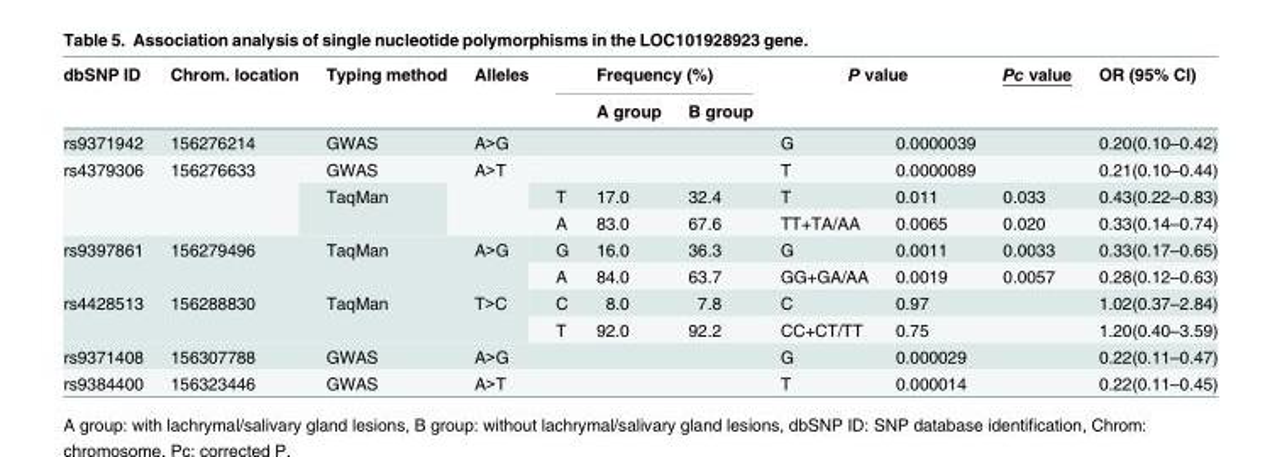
<table><thead><tr><td rowspan="3">dbSNP ID rs9371942</td><td rowspan="3">Chrom. location 156276214</td><td rowspan="3">Typing method GWAS</td><td rowspan="3">Alleles A&gt;G</td><td colspan="3">Frequency (%)</td><td rowspan="2" colspan="2">P value</td><td rowspan="3">Pc value</td><td rowspan="3">OR (95% CI) 0.20(0.10–0.42)</td></tr><tr><td rowspan="2"></td><td rowspan="2">A group</td><td rowspan="2">B group</td></tr><tr><td>G</td><td>0.0000039</td></tr></thead><tbody><tr><td rowspan="3">rs4379306</td><td rowspan="3">156276633</td><td>GWAS</td><td rowspan="3">A&gt;T</td><td></td><td></td><td></td><td>T</td><td>0.0000089</td><td></td><td>0.21(0.10–0.44)</td></tr><tr><td rowspan="2">TaqMan</td><td>T</td><td>17.0</td><td>32.4</td><td>T</td><td>0.011</td><td>0.033</td><td>0.43(0.22–0.83)</td></tr><tr><td>A</td><td>83.0</td><td>67.6</td><td>TT+TA/AA</td><td>0.0065</td><td>0.020</td><td>0.33(0.14–0.74)</td></tr><tr><td rowspan="2">rs9397861</td><td rowspan="2">156279496</td><td rowspan="2">TaqMan</td><td rowspan="2">A&gt;G</td><td>G</td><td>16.0</td><td>36.3</td><td>G</td><td>0.0011</td><td>0.0033</td><td>0.33(0.17–0.65)</td></tr><tr><td>A</td><td>84.0</td><td>63.7</td><td>GG+GA/AA</td><td>0.0019</td><td>0.0057</td><td>0.28(0.12–0.63)</td></tr><tr><td rowspan="2">rs4428513</td><td rowspan="2">156288830</td><td rowspan="2">TaqMan</td><td rowspan="2">T&gt;C</td><td>C</td><td>8.0</td><td>7.8</td><td>C</td><td>0.97</td><td></td><td>1.02(0.37–2.84)</td></tr><tr><td>T</td><td>92.0</td><td>92.2</td><td>CC+CT/TT</td><td>0.75</td><td></td><td>1.20(0.40–3.59)</td></tr><tr><td>rs9371408</td><td>156307788</td><td>GWAS</td><td>A&gt;G</td><td></td><td></td><td></td><td>G</td><td>0.000029</td><td></td><td>0.22(0.11–0.47)</td></tr><tr><td>rs9384400</td><td>156323446</td><td>GWAS</td><td>A&gt;T</td><td></td><td></td><td></td><td>T</td><td>0.000014</td><td></td><td>0.22(0.11–0.45)</td></tr></tbody></table>